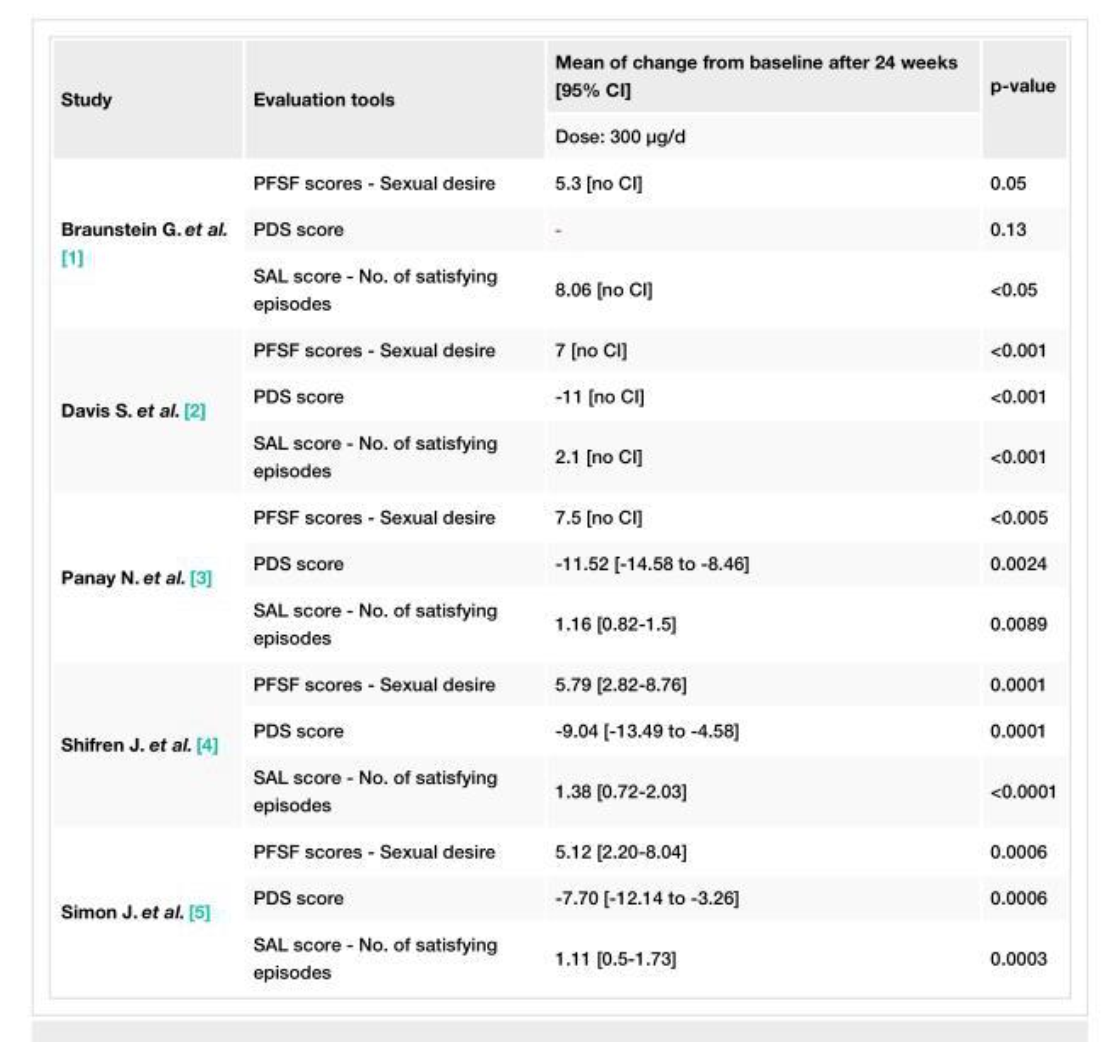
<table><tbody><tr><td rowspan="2">Study</td><td rowspan="2">Evaluation tools</td><td>Mean of change from baseline after 24 weeks [95% CI]</td><td rowspan="2">p-value</td></tr><tr><td>Dose: 300 µg/d</td></tr><tr><td rowspan="3">Braunstein G. et al. [1]</td><td>PFSF scores - Sexual desire</td><td>5.3 [no CI]</td><td>0.05</td></tr><tr><td>PDS score</td><td>-</td><td>0.13</td></tr><tr><td>SAL score - No. of satisfying episodes</td><td>8.06 [no CI]</td><td>&lt;0.05</td></tr><tr><td rowspan="3">Davis S. et al. [2]</td><td>PFSF scores - Sexual desire</td><td>7 [no CI]</td><td>&lt;0.001</td></tr><tr><td>PDS score</td><td>-11 [no CI]</td><td>&lt;0.001</td></tr><tr><td>SAL score - No. of satisfying episodes</td><td>2.1 [no CI]</td><td>&lt;0.001</td></tr><tr><td rowspan="3">Panay N. et al. [3]</td><td>PFSF scores - Sexual desire</td><td>7.5 [no CI]</td><td>&lt;0.005</td></tr><tr><td>PDS score</td><td>-11.52 [-14.58 to -8.46]</td><td>0.0024</td></tr><tr><td>SAL score - No. of satisfying episodes</td><td>1.16 [0.82-1.5]</td><td>0.0089</td></tr><tr><td rowspan="3">Shifren J. et al. [4]</td><td>PFSF scores - Sexual desire</td><td>5.79 [2.82-8.76]</td><td>0.0001</td></tr><tr><td>PDS score</td><td>-9.04 [-13.49 to -4.58]</td><td>0.0001</td></tr><tr><td>SAL score - No. of satisfying episodes</td><td>1.38 [0.72-2.03]</td><td>&lt;0.0001</td></tr><tr><td rowspan="3">Simon J. et al. [5]</td><td>PFSF scores - Sexual desire</td><td>5.12 [2.20-8.04]</td><td>0.0006</td></tr><tr><td>PDS score</td><td>-7.70 [-12.14 to -3.26]</td><td>0.0006</td></tr><tr><td>SAL score - No. of satisfying episodes</td><td>1.11 [0.5-1.73]</td><td>0.0003</td></tr></tbody></table>